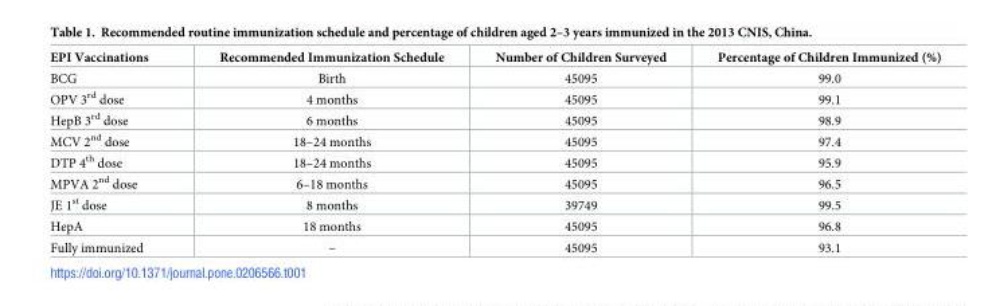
<table><thead><tr><td>EPI Vaccinations</td><td>Recommended Immunization Schedule</td><td>Number of Children Surveyed</td><td>Percentage of Children Immunized (%)</td></tr></thead><tbody><tr><td>BCG</td><td>Birth</td><td>45095</td><td>99.0</td></tr><tr><td>OPV 3<sup>rd</sup> dose</td><td>4 months</td><td>45095</td><td>99.1</td></tr><tr><td>HepB 3<sup>rd</sup> dose</td><td>6 months</td><td>45095</td><td>98.9</td></tr><tr><td>MCV 2<sup>nd</sup> dose</td><td>18–24 months</td><td>45095</td><td>97.4</td></tr><tr><td>DTP 4<sup>th</sup> dose</td><td>18–24 months</td><td>45095</td><td>95.9</td></tr><tr><td>MPVA 2<sup>nd</sup> dose</td><td>6–18 months</td><td>45095</td><td>96.5</td></tr><tr><td>JE 1<sup>st</sup> dose</td><td>8 months</td><td>39749</td><td>99.5</td></tr><tr><td>HepA</td><td>18 months</td><td>45095</td><td>96.8</td></tr><tr><td>Fully immunized</td><td>–</td><td>45095</td><td>93.1</td></tr></tbody></table>